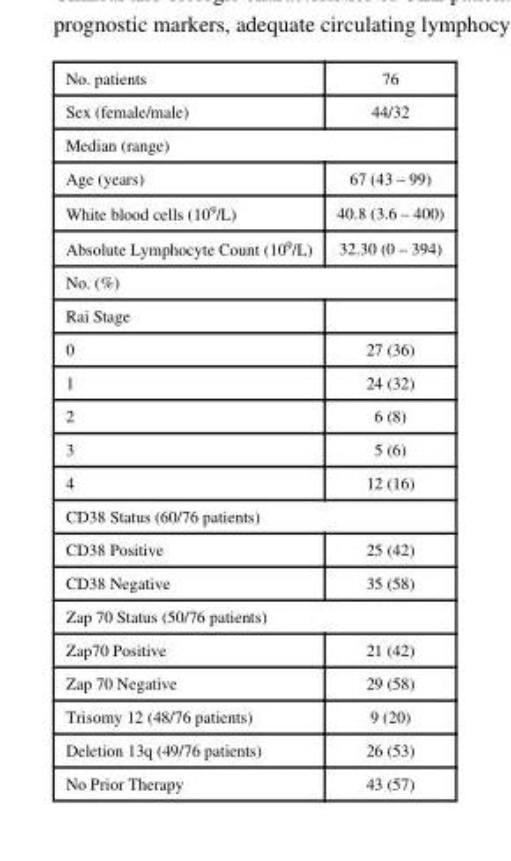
<table><tbody><tr><td>No. patients</td><td>76</td></tr><tr><td>Sex (female/male)</td><td>44/32</td></tr><tr><td colspan="2">Median (range)</td></tr><tr><td>Age (years)</td><td>67 (43 – 99)</td></tr><tr><td>White blood cells (10<sup>9</sup>/L)</td><td>40.8 (3.6 – 400)</td></tr><tr><td>Absolute Lymphocyte Count (10<sup>9</sup>/L)</td><td>32.30 (0 – 394)</td></tr><tr><td colspan="2">No. (%)</td></tr><tr><td colspan="2">Rai Stage</td></tr><tr><td>0</td><td>27 (36)</td></tr><tr><td>1</td><td>24 (32)</td></tr><tr><td>2</td><td>6 (8)</td></tr><tr><td>3</td><td>5 (6)</td></tr><tr><td>4</td><td>12 (16)</td></tr><tr><td colspan="2">CD38 Status (60/76 patients)</td></tr><tr><td>CD38 Positive</td><td>25 (42)</td></tr><tr><td>CD38 Negative</td><td>35 (58)</td></tr><tr><td colspan="2">Zap 70 Status (50/76 patients)</td></tr><tr><td>Zap70 Positive</td><td>21 (42)</td></tr><tr><td>Zap 70 Negative</td><td>29 (58)</td></tr><tr><td>Trisomy 12 (48/76 patients)</td><td>9 (20)</td></tr><tr><td>Deletion 13q (49/76 patients)</td><td>26 (53)</td></tr><tr><td>No Prior Therapy</td><td>43 (57)</td></tr></tbody></table>